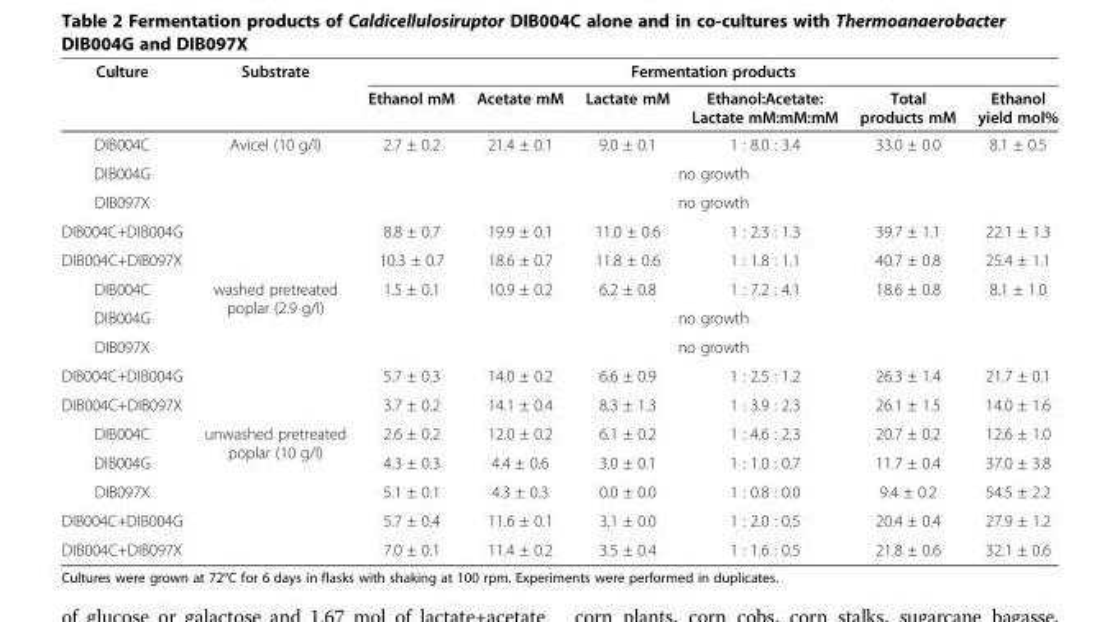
<table><thead><tr><td rowspan="2">Culture</td><td rowspan="2">Substrate</td><td colspan="6">Fermentation products</td></tr><tr><td>Ethanol mM</td><td>Acetate mM</td><td>Lactate mM</td><td>Ethanol:Acetate: Lactate mM:mM:mM</td><td>Total products mM</td><td>Ethanol yield mol%</td></tr></thead><tbody><tr><td>DIB004C</td><td rowspan="5">Avicel (10 g/l)</td><td>2.7 ± 0.2</td><td>21.4 ± 0.1</td><td>9.0 ± 0.1</td><td>1 : 8.0 : 3.4</td><td>33.0 ± 0.0</td><td>8.1 ± 0.5</td></tr><tr><td>DIB004G</td><td colspan="6">no growth</td></tr><tr><td>DIB097X</td><td colspan="6">no growth</td></tr><tr><td>DIB004C+DIB004G</td><td>8.8 ± 0.7</td><td>19.9 ± 0.1</td><td>11.0 ± 0.6</td><td>1 : 2.3 : 1.3</td><td>39.7 ± 1.1</td><td>22.1 ± 1.3</td></tr><tr><td>DIB004C+DIB097X</td><td>10.3 ± 0.7</td><td>18.6 ± 0.7</td><td>11.8 ± 0.6</td><td>1 : 1.8 : 1.1</td><td>40.7 ± 0.8</td><td>25.4 ± 1.1</td></tr><tr><td>DIB004C</td><td rowspan="5">washed pretreated poplar (2.9 g/l)</td><td>1.5 ± 0.1</td><td>10.9 ± 0.2</td><td>6.2 ± 0.8</td><td>1 : 7.2 : 4.1</td><td>18.6 ± 0.8</td><td>8.1 ± 1.0</td></tr><tr><td>DIB004G</td><td colspan="6">no growth</td></tr><tr><td>DIB097X</td><td colspan="6">no growth</td></tr><tr><td>DIB004C+DIB004G</td><td>5.7 ± 0.3</td><td>14.0 ± 0.2</td><td>6.6 ± 0.9</td><td>1 : 2.5 : 1.2</td><td>26.3 ± 1.4</td><td>21.7 ± 0.1</td></tr><tr><td>DIB004C+DIB097X</td><td>3.7 ± 0.2</td><td>14.1 ± 0.4</td><td>8.3 ± 1.3</td><td>1 : 3.9 : 2.3</td><td>26.1 ± 1.5</td><td>14.0 ± 1.6</td></tr><tr><td>DIB004C</td><td rowspan="4">unwashed pretreated poplar (10 g/l)</td><td>2.6 ± 0.2</td><td>12.0 ± 0.2</td><td>6.1 ± 0.2</td><td>1 : 4.6 : 2.3</td><td>20.7 ± 0.2</td><td>12.6 ± 1.0</td></tr><tr><td>DIB004G</td><td>4.3 ± 0.3</td><td>4.4 ± 0.6</td><td>3.0 ± 0.1</td><td>1 : 1.0 : 0.7</td><td>11.7 ± 0.4</td><td>37.0 ± 3.8</td></tr><tr><td>DIB097X</td><td>5.1 ± 0.1</td><td>4.3 ± 0.3</td><td>0.0 ± 0.0</td><td>1 : 0.8 : 0.0</td><td>9.4 ± 0.2</td><td>54.5 ± 2.2</td></tr><tr><td>DIB004C+DIB004G</td><td>5.7 ± 0.4</td><td>11.6 ± 0.1</td><td>3.1 ± 0.0</td><td>1 : 2.0 : 0.5</td><td>20.4 ± 0.4</td><td>27.9 ± 1.2</td></tr><tr><td>DIB004C+DIB097X</td><td></td><td>7.0 ± 0.1</td><td>11.4 ± 0.2</td><td>3.5 ± 0.4</td><td>1 : 1.6 : 0.5</td><td>21.8 ± 0.6</td><td>32.1 ± 0.6</td></tr></tbody></table>